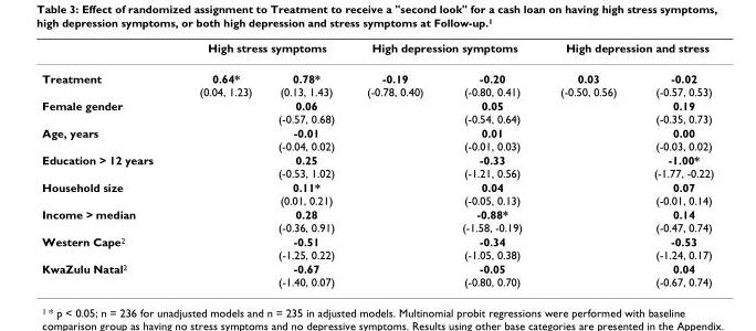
<table><thead><tr><td rowspan="2">Treatment</td><td colspan="2">High stress symptoms</td><td colspan="2">High depression symptoms</td><td colspan="2">High depression and stress</td></tr><tr><td>0.64* (0.04, 1.23)</td><td>0.78* (0.13, 1.43)</td><td>-0.19 (-0.78, 0.40)</td><td>-0.20 (-0.80, 0.41)</td><td>0.03 (-0.50, 0.56)</td><td>-0.02 (-0.57, 0.53)</td></tr></thead><tbody><tr><td>Female gender</td><td></td><td>0.06 (-0.57, 0.68)</td><td></td><td>0.05 (-0.54, 0.64)</td><td></td><td>0.19 (-0.35, 0.73)</td></tr><tr><td>Age, years</td><td></td><td>-0.01 (-0.04, 0.02)</td><td></td><td>0.01 (-0.01, 0.03)</td><td></td><td>0.00 (-0.03, 0.02)</td></tr><tr><td>Education &gt; 12 years</td><td></td><td>0.25 (-0.53, 1.02)</td><td></td><td>-0.33 (-1.21, 0.56)</td><td></td><td>-1.00* (-1.77, -0.22)</td></tr><tr><td>Household size</td><td></td><td>0.11* (0.01, 0.21)</td><td></td><td>0.04 (-0.05, 0.13)</td><td></td><td>0.07 (-0.01, 0.14)</td></tr><tr><td>Income &gt; median</td><td></td><td>0.28 (-0.36, 0.91)</td><td></td><td>-0.88* (-1.58, -0.19)</td><td></td><td>0.14 (-0.47, 0.74)</td></tr><tr><td>Western Cape<sup>2</sup></td><td></td><td>-0.51 (-1.25, 0.22)</td><td></td><td>-0.34 (-1.05, 0.38)</td><td></td><td>-0.53 (-1.24, 0.17)</td></tr><tr><td>KwaZulu Natal<sup>2</sup></td><td></td><td>-0.67 (-1.40, 0.07)</td><td></td><td>-0.05 (-0.80, 0.70)</td><td></td><td>0.04 (-0.67, 0.74)</td></tr></tbody></table>